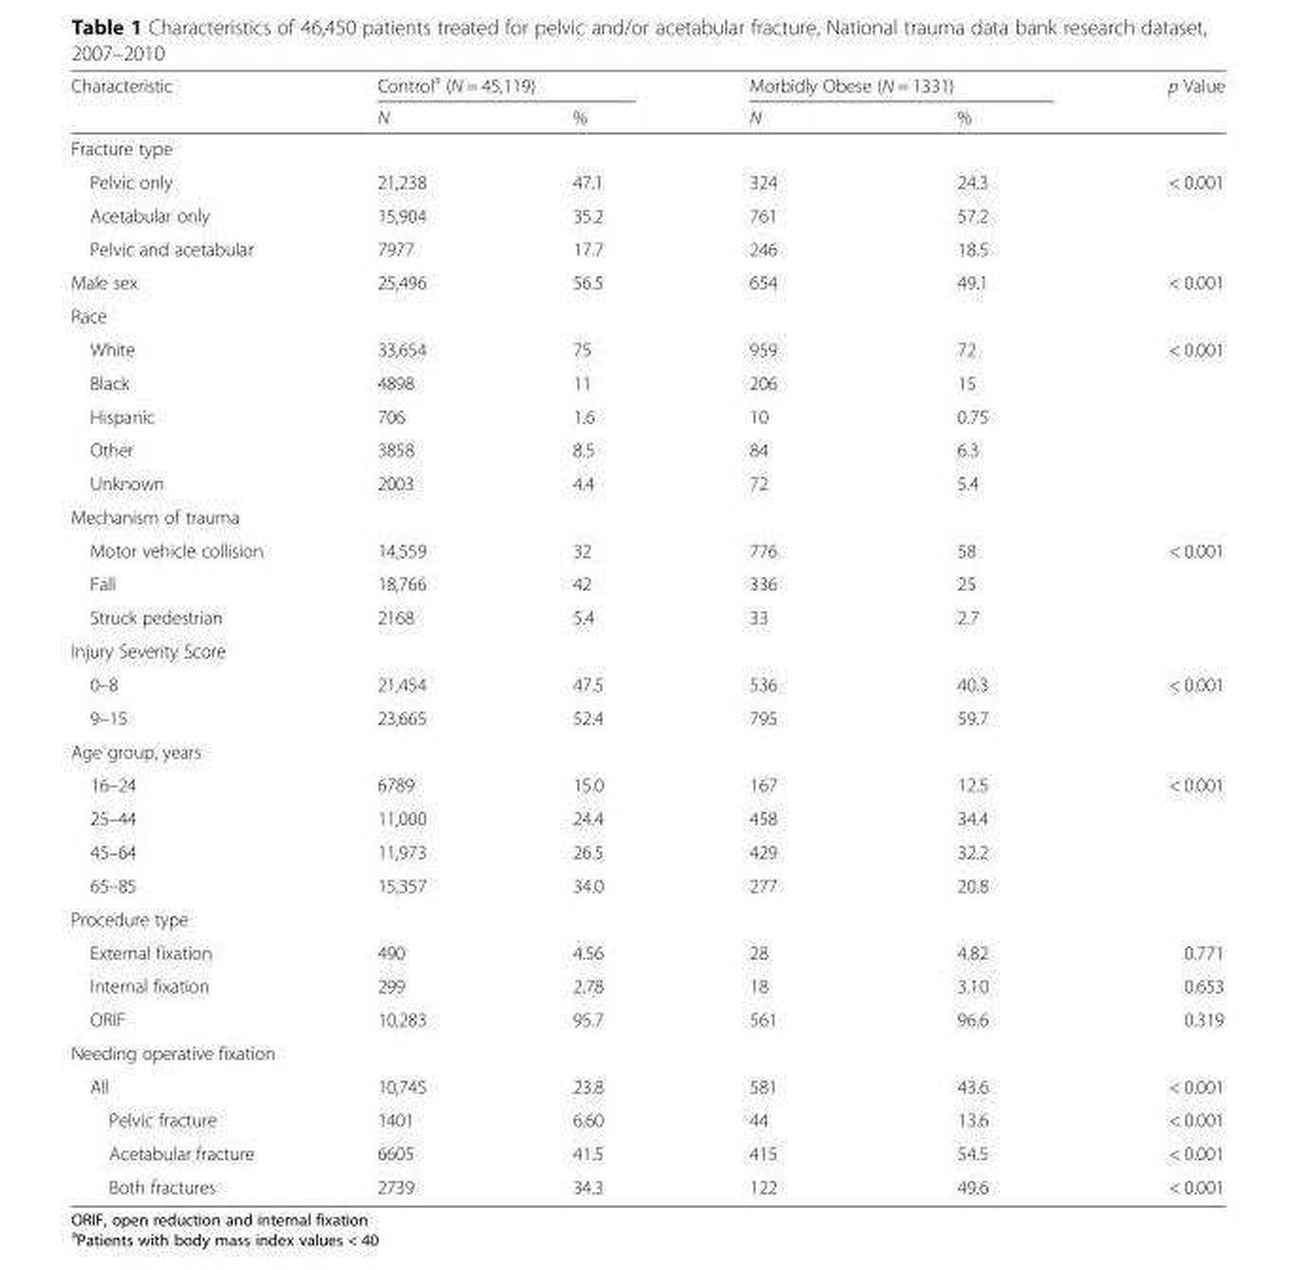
<table><thead><tr><td rowspan="2">Characteristic</td><td colspan="2">Control<sup>a</sup> (N = 45,119)</td><td colspan="2">Morbidly Obese (N = 1331)</td><td rowspan="2">p Value</td></tr><tr><td>N</td><td>%</td><td>N</td><td>%</td></tr></thead><tbody><tr><td colspan="6">Fracture type</td></tr><tr><td>Pelvic only</td><td>21,238</td><td>47.1</td><td>324</td><td>24.3</td><td rowspan="3">&lt; 0.001</td></tr><tr><td>Acetabular only</td><td>15,904</td><td>35.2</td><td>761</td><td>57.2</td></tr><tr><td>Pelvic and acetabular</td><td>7977</td><td>17.7</td><td>246</td><td>18.5</td></tr><tr><td>Male sex</td><td>25,496</td><td>56.5</td><td>654</td><td>49.1</td><td>&lt; 0.001</td></tr><tr><td colspan="6">Race</td></tr><tr><td>White</td><td>33,654</td><td>75</td><td>959</td><td>72</td><td rowspan="5">&lt; 0.001</td></tr><tr><td>Black</td><td>4898</td><td>11</td><td>206</td><td>15</td></tr><tr><td>Hispanic</td><td>706</td><td>1.6</td><td>10</td><td>0.75</td></tr><tr><td>Other</td><td>3858</td><td>8.5</td><td>84</td><td>6.3</td></tr><tr><td>Unknown</td><td>2003</td><td>4.4</td><td>72</td><td>5.4</td></tr><tr><td colspan="6">Mechanism of trauma</td></tr><tr><td>Motor vehicle collision</td><td>14,559</td><td>32</td><td>776</td><td>58</td><td rowspan="3">&lt; 0.001</td></tr><tr><td>Fall</td><td>18,766</td><td>42</td><td>336</td><td>25</td></tr><tr><td>Struck pedestrian</td><td>2168</td><td>5.4</td><td>33</td><td>2.7</td></tr><tr><td colspan="6">Injury Severity Score</td></tr><tr><td>0–8</td><td>21,454</td><td>47.5</td><td>536</td><td>40.3</td><td rowspan="2">&lt; 0.001</td></tr><tr><td>9–15</td><td>23,665</td><td>52.4</td><td>795</td><td>59.7</td></tr><tr><td colspan="6">Age group, years</td></tr><tr><td>16–24</td><td>6789</td><td>15.0</td><td>167</td><td>12.5</td><td rowspan="4">&lt; 0.001</td></tr><tr><td>25–44</td><td>11,000</td><td>24.4</td><td>458</td><td>34.4</td></tr><tr><td>45–64</td><td>11,973</td><td>26.5</td><td>429</td><td>32.2</td></tr><tr><td>65–85</td><td>15,357</td><td>34.0</td><td>277</td><td>20.8</td></tr><tr><td colspan="6">Procedure type</td></tr><tr><td>External fixation</td><td>490</td><td>4.56</td><td>28</td><td>4.82</td><td>0.771</td></tr><tr><td>Internal fixation</td><td>299</td><td>2.78</td><td>18</td><td>3.10</td><td>0.653</td></tr><tr><td>ORIF</td><td>10,283</td><td>95.7</td><td>561</td><td>96.6</td><td>0.319</td></tr><tr><td colspan="6">Needing operative fixation</td></tr><tr><td>All</td><td>10,745</td><td>23.8</td><td>581</td><td>43.6</td><td>&lt; 0.001</td></tr><tr><td>Pelvic fracture</td><td>1401</td><td>6.60</td><td>44</td><td>13.6</td><td>&lt; 0.001</td></tr><tr><td>Acetabular fracture</td><td>6605</td><td>41.5</td><td>415</td><td>54.5</td><td>&lt; 0.001</td></tr><tr><td>Both fractures</td><td>2739</td><td>34.3</td><td>122</td><td>49.6</td><td>&lt; 0.001</td></tr></tbody></table>